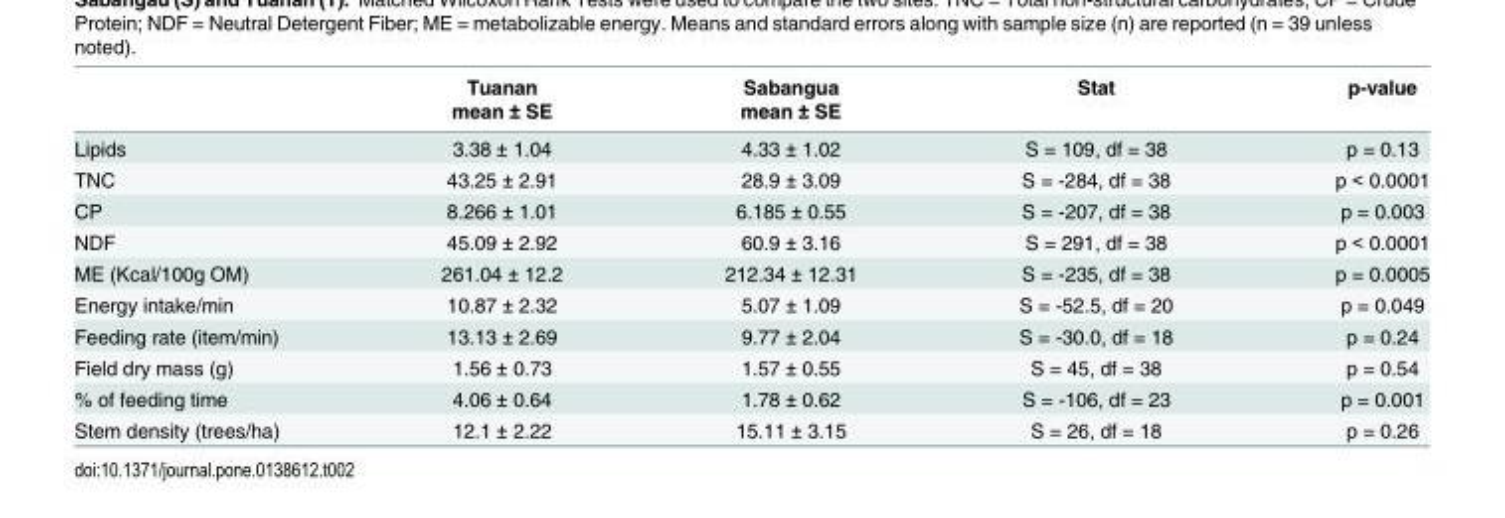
<table><thead><tr><td rowspan="2"></td><td rowspan="2">Tuanan mean ± SE</td><td rowspan="2">Sabangua mean ± SE</td><td rowspan="2">Stat</td><td rowspan="2">p-value</td></tr><tr></tr></thead><tbody><tr><td>Lipids</td><td>3.38 ± 1.04</td><td>4.33 ± 1.02</td><td>S = 109, df = 38</td><td>p = 0.13</td></tr><tr><td>TNC</td><td>43.25 ± 2.91</td><td>28.9 ± 3.09</td><td>S = -284, df = 38</td><td>p &lt; 0.0001</td></tr><tr><td>CP</td><td>8.266 ± 1.01</td><td>6.185 ± 0.55</td><td>S = -207, df = 38</td><td>p = 0.003</td></tr><tr><td>NDF</td><td>45.09 ± 2.92</td><td>60.9 ± 3.16</td><td>S = 291, df = 38</td><td>p &lt; 0.0001</td></tr><tr><td>ME (Kcal/100g OM)</td><td>261.04 ± 12.2</td><td>212.34 ± 12.31</td><td>S = -235, df = 38</td><td>p = 0.0005</td></tr><tr><td>Energy intake/min</td><td>10.87 ± 2.32</td><td>5.07 ± 1.09</td><td>S = -52.5, df = 20</td><td>p = 0.049</td></tr><tr><td>Feeding rate (item/min)</td><td>13.13 ± 2.69</td><td>9.77 ± 2.04</td><td>S = -30.0, df = 18</td><td>p = 0.24</td></tr><tr><td>Field dry mass (g)</td><td>1.56 ± 0.73</td><td>1.57 ± 0.55</td><td>S = 45, df = 38</td><td>p = 0.54</td></tr><tr><td>% of feeding time</td><td>4.06 ± 0.64</td><td>1.78 ± 0.62</td><td>S = -106, df = 23</td><td>p = 0.001</td></tr><tr><td>Stem density (trees/ha)</td><td>12.1 ± 2.22</td><td>15.11 ± 3.15</td><td>S = 26, df = 18</td><td>p = 0.26</td></tr></tbody></table>